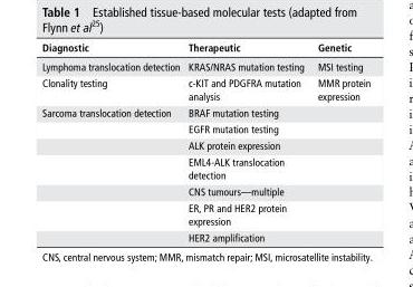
<table><thead><tr><td>diagnostic</td><td>Therapeutic</td><td>genetic</td></tr></thead><tbody><tr><td>Lymphoma translocation detection</td><td>KRAS/NRAS mutation testing</td><td>MSI testing</td></tr><tr><td>Clonality testing</td><td>c-KIT and PDGFRA mutation analysis</td><td>MMR protein expression</td></tr><tr><td rowspan="7">Sarcoma translocation detection</td><td>BRAF mutation testing</td><td></td></tr><tr><td>EGFR mutation testing</td><td></td></tr><tr><td>ALK protein expression</td><td></td></tr><tr><td>EML4-ALK translocation detection</td><td></td></tr><tr><td>CNS tumours—multiple</td><td></td></tr><tr><td>ER, PR and HER2 protein expression</td><td></td></tr><tr><td>HER2 amplification</td><td></td></tr></tbody></table>